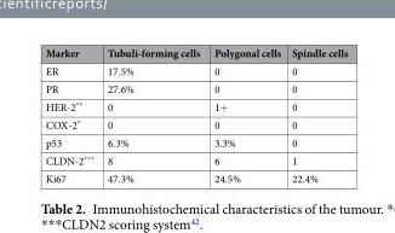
<table><thead><tr><td>Marker</td><td>Tubuli-forming cells</td><td>Polygonal cells</td><td>Spindle cells</td></tr></thead><tbody><tr><td>ER</td><td>17.5%</td><td>0</td><td>0</td></tr><tr><td>PR</td><td>27.6%</td><td>0</td><td>0</td></tr><tr><td>HER-2**</td><td>0</td><td>1+</td><td>0</td></tr><tr><td>COX-2*</td><td>0</td><td>0</td><td>0</td></tr><tr><td>p53</td><td>6.3%</td><td>3.3%</td><td>0</td></tr><tr><td>CLDN-2***</td><td>8</td><td>6</td><td>1</td></tr><tr><td>Ki67</td><td>47.3%</td><td>24.5%</td><td>22.4%</td></tr></tbody></table>